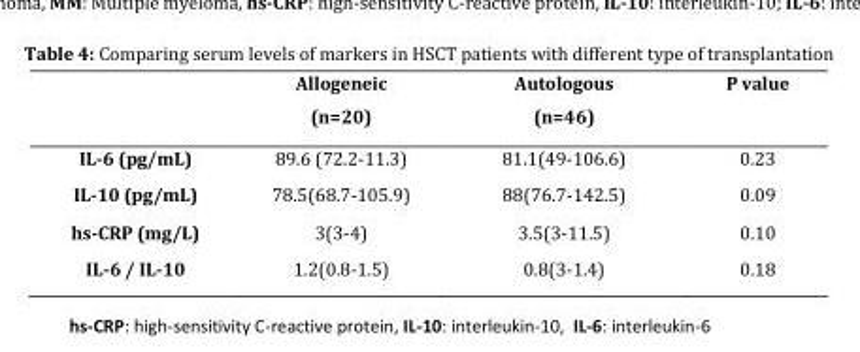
<table><thead><tr><td></td><td>Allogeneic (n=20)</td><td>Autologous (n=46)</td><td>P value</td></tr></thead><tbody><tr><td>IL-6 (pg/mL)</td><td>89.6 (72.2-11.3)</td><td>81.1(49-106.6)</td><td>0.23</td></tr><tr><td>IL-10 (pg/mL)</td><td>78.5(68.7-105.9)</td><td>88(76.7-142.5)</td><td>0.09</td></tr><tr><td>hs-CRP (mg/L)</td><td>3(3-4)</td><td>3.5(3-11.5)</td><td>0.10</td></tr><tr><td>IL-6 / IL-10</td><td>1.2(0.8-1.5)</td><td>0.8(3-1.4)</td><td>0.18</td></tr></tbody></table>